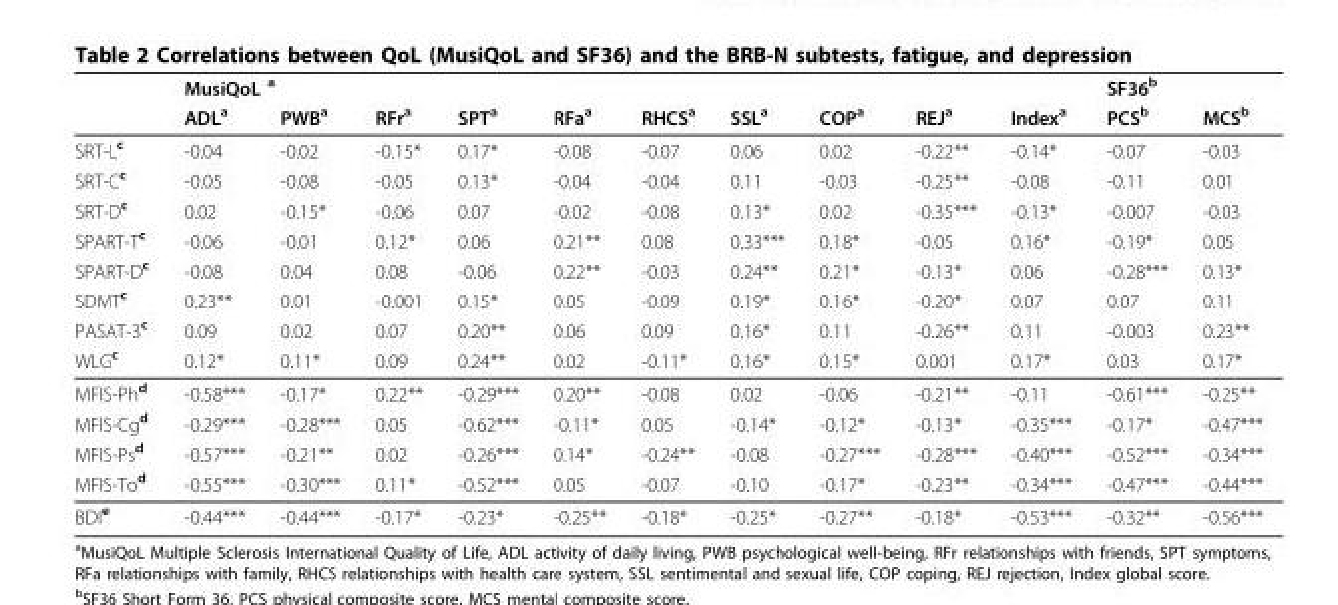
<table><thead><tr><td rowspan="2"></td><td colspan="2">MusiQoL <sup>a</sup></td><td rowspan="2">RFr<sup>a</sup></td><td rowspan="2">SPT<sup>a</sup></td><td rowspan="2">RFa<sup>a</sup></td><td rowspan="2">RHCS<sup>a</sup></td><td rowspan="2">SSL<sup>a</sup></td><td rowspan="2">COP<sup>a</sup></td><td rowspan="2">REJ<sup>a</sup></td><td rowspan="2">Index<sup>a</sup></td><td rowspan="2">SF36<sup>b</sup> PCS<sup>b</sup></td><td rowspan="2">MCS<sup>b</sup></td></tr><tr><td>ADL<sup>a</sup></td><td>PWB<sup>a</sup></td></tr></thead><tbody><tr><td>SRT-L<sup>c</sup></td><td>-0.04</td><td>-0.02</td><td>-0.15*</td><td>0.17*</td><td>-0.08</td><td>-0.07</td><td>0.06</td><td>0.02</td><td>-0.22**</td><td>-0.14*</td><td>-0.07</td><td>-0.03</td></tr><tr><td>SRT-C<sup>c</sup></td><td>-0.05</td><td>-0.08</td><td>-0.05</td><td>0.13*</td><td>-0.04</td><td>-0.04</td><td>0.11</td><td>-0.03</td><td>-0.25**</td><td>-0.08</td><td>-0.11</td><td>0.01</td></tr><tr><td>SRT-D<sup>c</sup></td><td>0.02</td><td>-0.15*</td><td>-0.06</td><td>0.07</td><td>-0.02</td><td>-0.08</td><td>0.13*</td><td>0.02</td><td>-0.35***</td><td>-0.13*</td><td>-0.007</td><td>-0.03</td></tr><tr><td>SPART-T<sup>c</sup></td><td>-0.06</td><td>-0.01</td><td>0.12*</td><td>0.06</td><td>0.21**</td><td>0.08</td><td>0.33***</td><td>0.18*</td><td>-0.05</td><td>0.16*</td><td>-0.19*</td><td>0.05</td></tr><tr><td>SPART-D<sup>c</sup></td><td>-0.08</td><td>0.04</td><td>0.08</td><td>-0.06</td><td>0.22**</td><td>-0.03</td><td>0.24**</td><td>0.21*</td><td>-0.13*</td><td>0.06</td><td>-0.28***</td><td>0.13*</td></tr><tr><td>SDMT<sup>c</sup></td><td>0.23**</td><td>0.01</td><td>-0.001</td><td>0.15*</td><td>0.05</td><td>-0.09</td><td>0.19*</td><td>0.16*</td><td>-0.20*</td><td>0.07</td><td>0.07</td><td>0.11</td></tr><tr><td>PASAT-3<sup>c</sup></td><td>0.09</td><td>0.02</td><td>0.07</td><td>0.20**</td><td>0.06</td><td>0.09</td><td>0.16*</td><td>0.11</td><td>-0.26**</td><td>0.11</td><td>-0.003</td><td>0.23**</td></tr><tr><td>WLG<sup>c</sup></td><td>0.12*</td><td>0.11*</td><td>0.09</td><td>0.24**</td><td>0.02</td><td>-0.11*</td><td>0.16*</td><td>0.15*</td><td>0.001</td><td>0.17*</td><td>0.03</td><td>0.17*</td></tr><tr><td>MFIS-Ph<sup>d</sup></td><td>-0.58***</td><td>-0.17*</td><td>0.22**</td><td>-0.29***</td><td>0.20**</td><td>-0.08</td><td>0.02</td><td>-0.06</td><td>-0.21**</td><td>-0.11</td><td>-0.61***</td><td>-0.25**</td></tr><tr><td>MFIS-Cg<sup>d</sup></td><td>-0.29***</td><td>-0.28***</td><td>0.05</td><td>-0.62***</td><td>-0.11*</td><td>0.05</td><td>-0.14*</td><td>-0.12*</td><td>-0.13*</td><td>-0.35***</td><td>-0.17*</td><td>-0.47***</td></tr><tr><td>MFIS-Ps<sup>d</sup></td><td>-0.57***</td><td>-0.21**</td><td>0.02</td><td>-0.26***</td><td>0.14*</td><td>-0.24**</td><td>-0.08</td><td>-0.27***</td><td>-0.28***</td><td>-0.40***</td><td>-0.52***</td><td>-0.34***</td></tr><tr><td>MFIS-To<sup>d</sup></td><td>-0.55***</td><td>-0.30***</td><td>0.11*</td><td>-0.52***</td><td>0.05</td><td>-0.07</td><td>-0.10</td><td>-0.17*</td><td>-0.23**</td><td>-0.34***</td><td>-0.47***</td><td>-0.44***</td></tr><tr><td>BDI<sup>e</sup></td><td>-0.44***</td><td>-0.44***</td><td>-0.17*</td><td>-0.23*</td><td>-0.25**</td><td>-0.18*</td><td>-0.25*</td><td>-0.27**</td><td>-0.18*</td><td>-0.53***</td><td>-0.32**</td><td>-0.56***</td></tr></tbody></table>